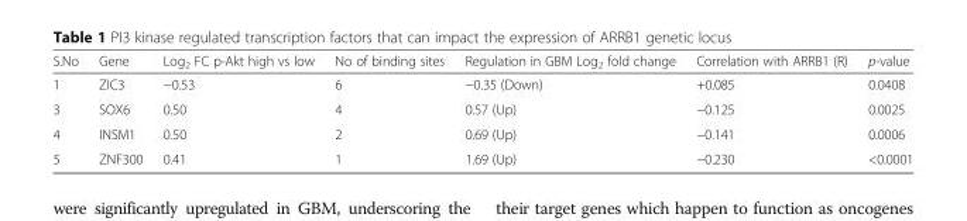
<table><thead><tr><td>S.No</td><td>Gene</td><td>Log<sub>2</sub> FC p-Akt high vs low</td><td>No of binding sites</td><td>Regulation in GBM Log<sub>2</sub> fold change</td><td>Correlation with ARRB1 (R)</td><td>p-value</td></tr></thead><tbody><tr><td>1</td><td>ZIC3</td><td>−0.53</td><td>6</td><td>−0.35 (Down)</td><td>+0.085</td><td>0.0408</td></tr><tr><td>3</td><td>SOX6</td><td>0.50</td><td>4</td><td>0.57 (Up)</td><td>−0.125</td><td>0.0025</td></tr><tr><td>4</td><td>INSM1</td><td>0.50</td><td>2</td><td>0.69 (Up)</td><td>−0.141</td><td>0.0006</td></tr><tr><td>5</td><td>ZNF300</td><td>0.41</td><td>1</td><td>1.69 (Up)</td><td>−0.230</td><td>&lt;0.0001</td></tr></tbody></table>